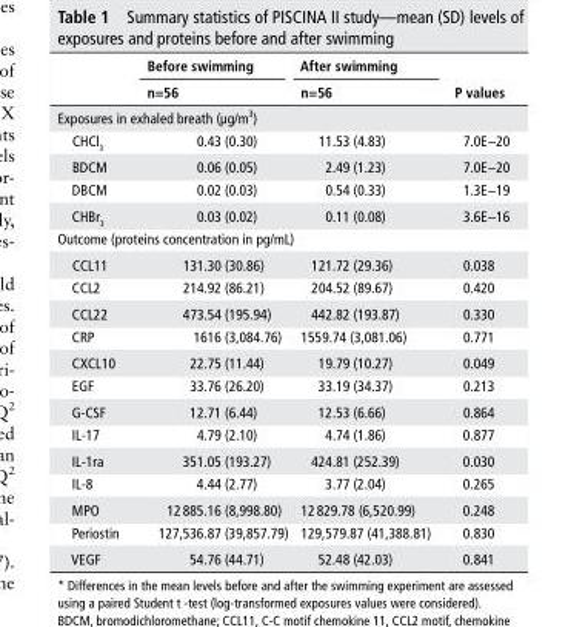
<table><thead><tr><td rowspan="2"></td><td rowspan="2">before swimming n=56</td><td rowspan="2">After swimming n=56</td><td rowspan="2">P values</td></tr><tr></tr></thead><tbody><tr><td colspan="4">Exposures in exhaled breath (μg/m<sup>3</sup>)</td></tr><tr><td>CHCl<sub>3</sub></td><td>0.43 (0.30)</td><td>11.53 (4.83)</td><td>7.0E−20</td></tr><tr><td>BDCM</td><td>0.06 (0.05)</td><td>2.49 (1.23)</td><td>7.0E−20</td></tr><tr><td>DBCM</td><td>0.02 (0.03)</td><td>0.54 (0.33)</td><td>1.3E−19</td></tr><tr><td>CHBr<sub>3</sub></td><td>0.03 (0.02)</td><td>0.11 (0.08)</td><td>3.6E−16</td></tr><tr><td colspan="4">Outcome (proteins concentration in pg/mL)</td></tr><tr><td>CCL11</td><td>131.30 (30.86)</td><td>121.72 (29.36)</td><td>0.038</td></tr><tr><td>CCL2</td><td>214.92 (86.21)</td><td>204.52 (89.67)</td><td>0.420</td></tr><tr><td>CCL22</td><td>473.54 (195.94)</td><td>442.82 (193.87)</td><td>0.330</td></tr><tr><td>CRP</td><td>1616 (3,084.76)</td><td>1559.74 (3,081.06)</td><td>0.771</td></tr><tr><td>CXCL10</td><td>22.75 (11.44)</td><td>19.79 (10.27)</td><td>0.049</td></tr><tr><td>EGF</td><td>33.76 (26.20)</td><td>33.19 (34.37)</td><td>0.213</td></tr><tr><td>G-CSF</td><td>12.71 (6.44)</td><td>12.53 (6.66)</td><td>0.864</td></tr><tr><td>IL-17</td><td>4.79 (2.10)</td><td>4.74 (1.86)</td><td>0.877</td></tr><tr><td>IL-1ra</td><td>351.05 (193.27)</td><td>424.81 (252.39)</td><td>0.030</td></tr><tr><td>IL-8</td><td>4.44 (2.77)</td><td>3.77 (2.04)</td><td>0.265</td></tr><tr><td>MPO</td><td>12 885.16 (8,998.80)</td><td>12 829.78 (6,520.99)</td><td>0.248</td></tr><tr><td>Periostin</td><td>127,536.87 (39,857.79)</td><td>129,579.87 (41,388.81)</td><td>0.830</td></tr><tr><td>VEGF</td><td>54.76 (44.71)</td><td>52.48 (42.03)</td><td>0.841</td></tr></tbody></table>